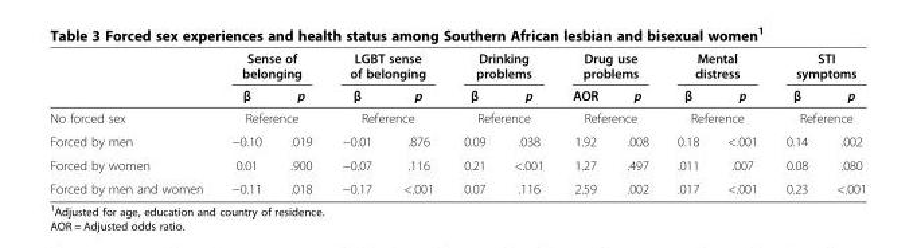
<table><thead><tr><td rowspan="2"></td><td colspan="2">Sense of belonging</td><td colspan="2">LGBT sense of belonging</td><td colspan="2">Drinking problems</td><td colspan="2">Drug use problems</td><td colspan="2">Mental distress</td><td colspan="2">STI symptoms</td></tr><tr><td>β</td><td>p</td><td>β</td><td>p</td><td>β</td><td>p</td><td>AOR</td><td>p</td><td>β</td><td>p</td><td>β</td><td>p</td></tr></thead><tbody><tr><td>No forced sex</td><td colspan="2">Reference</td><td colspan="2">Reference</td><td colspan="2">Reference</td><td colspan="2">Reference</td><td colspan="2">Reference</td><td colspan="2">Reference</td></tr><tr><td>Forced by men</td><td>−0.10</td><td>.019</td><td>−0.01</td><td>.876</td><td>0.09</td><td>.038</td><td>1.92</td><td>.008</td><td>0.18</td><td>&lt;.001</td><td>0.14</td><td>.002</td></tr><tr><td>Forced by women</td><td>0.01</td><td>.900</td><td>−0.07</td><td>.116</td><td>0.21</td><td>&lt;.001</td><td>1.27</td><td>.497</td><td>.011</td><td>.007</td><td>0.08</td><td>.080</td></tr><tr><td>Forced by men and women</td><td>−0.11</td><td>.018</td><td>−0.17</td><td>&lt;.001</td><td>0.07</td><td>.116</td><td>2.59</td><td>.002</td><td>.017</td><td>&lt;.001</td><td>0.23</td><td>&lt;.001</td></tr></tbody></table>